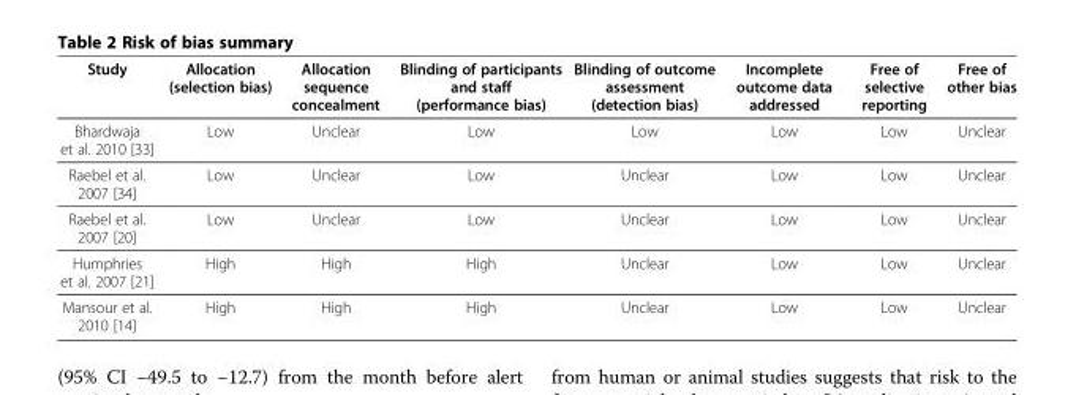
<table><thead><tr><td>Study</td><td>Allocation (selection bias)</td><td>Allocation sequence concealment</td><td>Blinding of participants and staff (performance bias)</td><td>Blinding of outcome assessment (detection bias)</td><td>Incomplete outcome data addressed</td><td>Free of selective reporting</td><td>Free of other bias</td></tr></thead><tbody><tr><td>Bhardwaja et al. 2010 [33]</td><td>Low</td><td>Unclear</td><td>Low</td><td>Low</td><td>Low</td><td>Low</td><td>Unclear</td></tr><tr><td>Raebel et al. 2007 [34]</td><td>Low</td><td>Unclear</td><td>Low</td><td>Unclear</td><td>Low</td><td>Low</td><td>Unclear</td></tr><tr><td>Raebel et al. 2007 [20]</td><td>Low</td><td>Unclear</td><td>Low</td><td>Unclear</td><td>Low</td><td>Low</td><td>Unclear</td></tr><tr><td>Humphries et al. 2007 [21]</td><td>High</td><td>High</td><td>High</td><td>Unclear</td><td>Low</td><td>Low</td><td>Unclear</td></tr><tr><td>Mansour et al. 2010 [14]</td><td>High</td><td>High</td><td>High</td><td>Unclear</td><td>Low</td><td>Low</td><td>Unclear</td></tr></tbody></table>